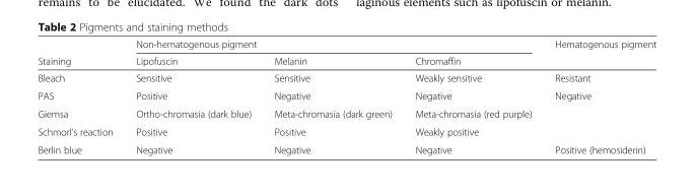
<table><thead><tr><td rowspan="2">Staining</td><td colspan="3">Non-hematogenous pigment</td><td rowspan="2">Hematogenous pigment</td></tr><tr><td>Lipofuscin</td><td>Melanin</td><td>Chromaffin</td></tr></thead><tbody><tr><td>Bleach</td><td>Sensitive</td><td>Sensitive</td><td>Weakly sensitive</td><td>Resistant</td></tr><tr><td>PAS</td><td>Positive</td><td>Negative</td><td>Negative</td><td>Negative</td></tr><tr><td>Giemsa</td><td>Ortho-chromasia (dark blue)</td><td>Meta-chromasia (dark green)</td><td>Meta-chromasia (red purple)</td><td></td></tr><tr><td>Schmorl’s reaction</td><td>Positive</td><td>Positive</td><td>Weakly positive</td><td></td></tr><tr><td>Berlin blue</td><td>Negative</td><td>Negative</td><td>Negative</td><td>Positive (hemosiderin)</td></tr></tbody></table>